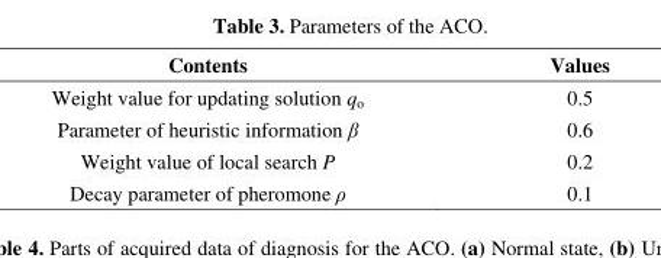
<table><thead><tr><td>Contents</td><td>Values</td></tr></thead><tbody><tr><td>Weight value for updating solution q<sub>o</sub></td><td>0.5</td></tr><tr><td>Parameter of heuristic information β</td><td>0.6</td></tr><tr><td>Weight value of local search P</td><td>0.2</td></tr><tr><td>Decay parameter of pheromone ρ</td><td>0.1</td></tr></tbody></table>